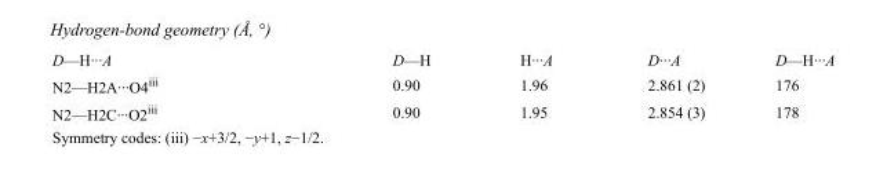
<table><tbody><tr><td>D—H···A</td><td>D—H</td><td>H···A</td><td>D···A</td><td>D—H···A</td></tr><tr><td>N2—H2A···O4<sup>iii</sup></td><td>0.90</td><td>1.96</td><td>2.861 (2)</td><td>176</td></tr><tr><td>N2—H2C···O2<sup>iii</sup></td><td>0.90</td><td>1.95</td><td>2.854 (3)</td><td>178</td></tr></tbody></table>